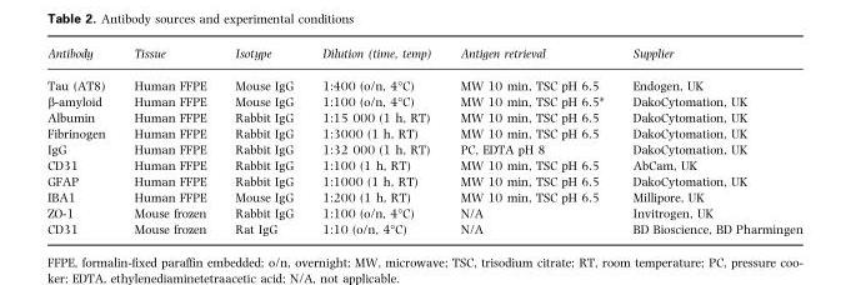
<table><thead><tr><td>Antibody</td><td>Tissue</td><td>Isotype</td><td>Dilution (time, temp)</td><td>Antigen retrieval</td><td>Supplier</td></tr></thead><tbody><tr><td>Tau (AT8)</td><td>Human FFPE</td><td>Mouse IgG</td><td>1:400 (o/n, 4°C)</td><td>MW 10 min, TSC pH 6.5</td><td>Endogen, UK</td></tr><tr><td>β-amyloid</td><td>Human FFPE</td><td>Mouse IgG</td><td>1:100 (o/n, 4°C)</td><td>MW 10 min, TSC pH 6.5*</td><td>DakoCytomation, UK</td></tr><tr><td>Albumin</td><td>Human FFPE</td><td>Rabbit IgG</td><td>1:15 000 (1 h, RT)</td><td>MW 10 min, TSC pH 6.5</td><td>DakoCytomation, UK</td></tr><tr><td>Fibrinogen</td><td>Human FFPE</td><td>Rabbit IgG</td><td>1:3000 (1 h, RT)</td><td>MW 10 min, TSC pH 6.5</td><td>DakoCytomation, UK</td></tr><tr><td>IgG</td><td>Human FFPE</td><td>Rabbit IgG</td><td>1:32 000 (1 h, RT)</td><td>PC, EDTA pH 8</td><td>DakoCytomation, UK</td></tr><tr><td>CD31</td><td>Human FFPE</td><td>Rabbit IgG</td><td>1:100 (1 h, RT)</td><td>MW 10 min, TSC pH 6.5</td><td>AbCam, UK</td></tr><tr><td>GFAP</td><td>Human FFPE</td><td>Rabbit IgG</td><td>1:1000 (1 h, RT)</td><td>MW 10 min, TSC pH 6.5</td><td>DakoCytomation, UK</td></tr><tr><td>IBA1</td><td>Human FFPE</td><td>Mouse IgG</td><td>1:200 (1 h, RT)</td><td>MW 10 min, TSC pH 6.5</td><td>Millipore, UK</td></tr><tr><td>ZO-1</td><td>Mouse frozen</td><td>Rabbit IgG</td><td>1:100 (o/n, 4°C)</td><td>N/A</td><td>Invitrogen, UK</td></tr><tr><td>CD31</td><td>Mouse frozen</td><td>Rat IgG</td><td>1:10 (o/n, 4°C)</td><td>N/A</td><td>BD Bioscience, BD Pharmingen</td></tr></tbody></table>